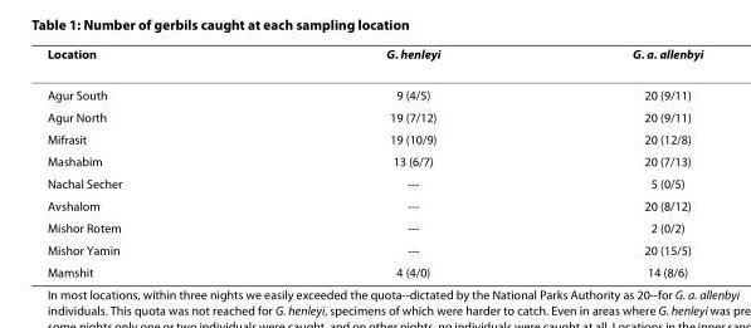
<table><thead><tr><td>Location</td><td>G. henleyi</td><td>G. a. allenbyi</td></tr></thead><tbody><tr><td>Agur South</td><td>9 (4/5)</td><td>20 (9/11)</td></tr><tr><td>Agur North</td><td>19 (7/12)</td><td>20 (9/11)</td></tr><tr><td>Mifrasit</td><td>19 (10/9)</td><td>20 (12/8)</td></tr><tr><td>Mashabim</td><td>13 (6/7)</td><td>20 (7/13)</td></tr><tr><td>Nachal Secher</td><td>---</td><td>5 (0/5)</td></tr><tr><td>Avshalom</td><td>---</td><td>20 (8/12)</td></tr><tr><td>Mishor Rotem</td><td>---</td><td>2 (0/2)</td></tr><tr><td>Mishor Yamin</td><td>---</td><td>20 (15/5)</td></tr><tr><td>Mamshit</td><td>4 (4/0)</td><td>14 (8/6)</td></tr></tbody></table>